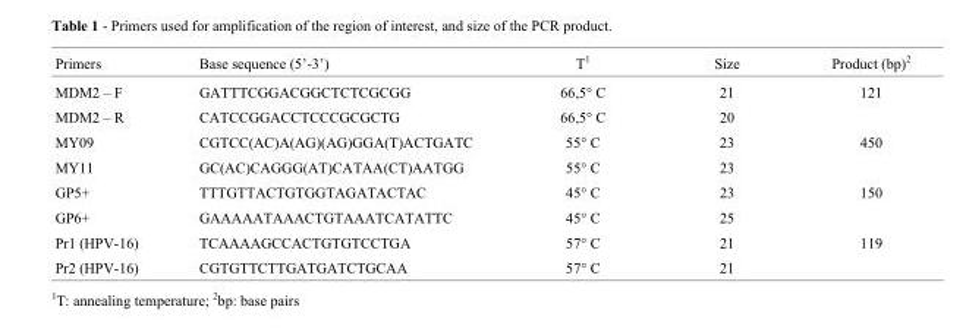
<table><thead><tr><td>Primers</td><td>Base sequence (5’-3’)</td><td>T<sup>1</sup></td><td>Size</td><td>Product (bp)<sup>2</sup></td></tr></thead><tbody><tr><td>MDM2 – F</td><td>GATTTCGGACGGCTCTCGCGG</td><td>66,5° C</td><td>21</td><td>121</td></tr><tr><td>MDM2 – R</td><td>CATCCGGACCTCCCGCGCTG</td><td>66,5° C</td><td>20</td><td></td></tr><tr><td>MY09</td><td>CGTCC(AC)A(AG)(AG)GGA(T)ACTGATC</td><td>55° C</td><td>23</td><td>450</td></tr><tr><td>MY11</td><td>GC(AC)CAGGG(AT)CATAA(CT)AATGG</td><td>55° C</td><td>23</td><td></td></tr><tr><td>GP5+</td><td>TTTGTTACTGTGGTAGATACTAC</td><td>45° C</td><td>23</td><td>150</td></tr><tr><td>GP6+</td><td>GAAAAATAAACTGTAAATCATATTC</td><td>45° C</td><td>25</td><td></td></tr><tr><td>Pr1 (HPV-16)</td><td>TCAAAAGCCACTGTGTCCTGA</td><td>57° C</td><td>21</td><td>119</td></tr><tr><td>Pr2 (HPV-16)</td><td>CGTGTTCTTGATGATCTGCAA</td><td>57° C</td><td>21</td><td></td></tr></tbody></table>